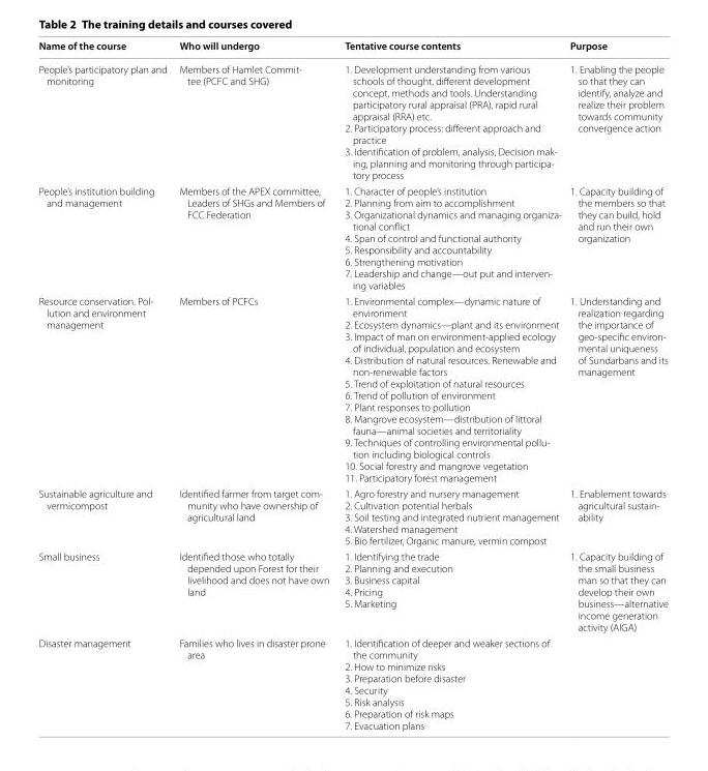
<table><thead><tr><td>Name of the course</td><td>Who will undergo</td><td>Tentative course contents</td><td>Purpose</td></tr></thead><tbody><tr><td>People’s participatory plan and monitoring</td><td>Members of Hamlet Commit- tee (PCFC and SHG)</td><td>1. Development understanding from various schools of thought, different development concept, methods and tools. Understanding participatory rural appraisal (PRA), rapid rural appraisal (RRA) etc. 2. Participatory process: different approach and practice 3. Identification of problem, analysis, Decision mak- ing, planning and monitoring through participa- tory process</td><td>1. Enabling the people so that they can identify, analyze and realize their problem towards community convergence action</td></tr><tr><td>People’s institution building and management</td><td>Members of the APEX committee, Leaders of SHGs and Members of FCC Federation</td><td>1. Character of people’s institution 2. Planning from aim to accomplishment 3. Organizational dynamics and managing organiza- tional conflict 4. Span of control and functional authority 5. Responsibility and accountability 6. Strengthening motivation 7. Leadership and change—out put and interven- ing variables</td><td>1. Capacity building of the members so that they can build, hold and run their own organization</td></tr><tr><td>Resource conservation. Pol- lution and environment management</td><td>Members of PCFCs</td><td>1. Environmental complex—dynamic nature of environment 2. Ecosystem dynamics—plant and its environment 3. Impact of man on environment-applied ecology of individual, population and ecosystem 4. Distribution of natural resources. Renewable and non-renewable factors 5. Trend of exploitation of natural resources 6. Trend of pollution of environment 7. Plant responses to pollution 8. Mangrove ecosystem—distribution of littoral fauna—animal societies and territoriality 9. Techniques of controlling environmental pollu- tion including biological controls 10. Social forestry and mangrove vegetation 11. Participatory forest management</td><td>1. Understanding and realization regarding the importance of geo-specific environ- mental uniqueness of Sundarbans and its management</td></tr><tr><td>Sustainable agriculture and vermicompost</td><td>Identified farmer from target com- munity who have ownership of agricultural land</td><td>1. Agro forestry and nursery management 2. Cultivation potential herbals 3. Soil testing and integrated nutrient management 4. Watershed management 5. Bio fertilizer, Organic manure, vermin compost</td><td>1. Enablement towards agricultural sustain- ability</td></tr><tr><td>Small business</td><td>Identified those who totally depended upon Forest for their livelihood and does not have own land</td><td>1. Identifying the trade 2. Planning and execution 3. Business capital 4. Pricing 5. Marketing</td><td>1. Capacity building of the small business man so that they can develop their own business—alternative income generation activity (AIGA)</td></tr><tr><td>Disaster management</td><td>Families who lives in disaster prone area</td><td>1. Identification of deeper and weaker sections of the community 2. How to minimize risks 3. Preparation before disaster 4. Security 5. Risk analysis 6. Preparation of risk maps 7. Evacuation plans</td><td></td></tr></tbody></table>